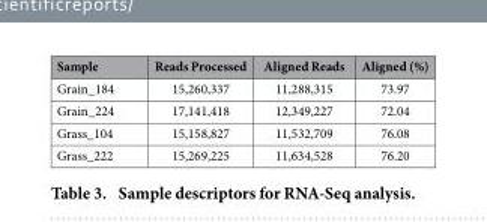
<table><thead><tr><td>Sample</td><td>Reads Processed</td><td>Aligned Reads</td><td>Aligned (%)</td></tr></thead><tbody><tr><td>Grain_184</td><td>15,260,337</td><td>11,288,315</td><td>73.97</td></tr><tr><td>Grain_224</td><td>17,141,418</td><td>12,349,227</td><td>72.04</td></tr><tr><td>Grass_104</td><td>15,158,827</td><td>11,532,709</td><td>76.08</td></tr><tr><td>Grass_222</td><td>15,269,225</td><td>11,634,528</td><td>76.20</td></tr></tbody></table>